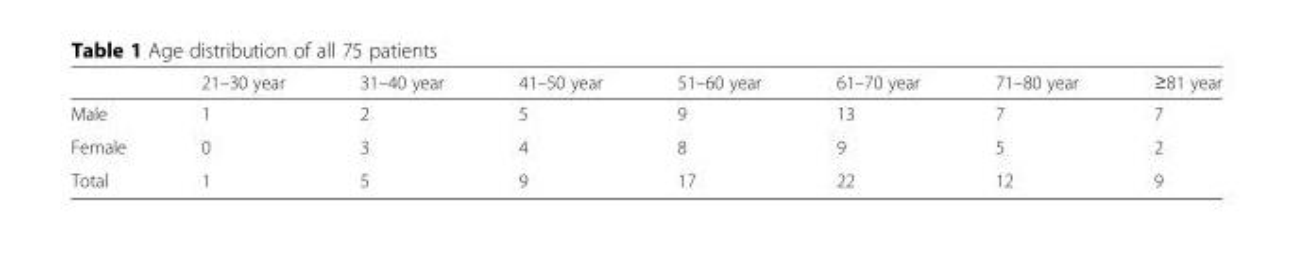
<table><thead><tr><td></td><td>21–30 year</td><td>31–40 year</td><td>41–50 year</td><td>51–60 year</td><td>61–70 year</td><td>71–80 year</td><td>≥81 year</td></tr></thead><tbody><tr><td>Male</td><td>1</td><td>2</td><td>5</td><td>9</td><td>13</td><td>7</td><td>7</td></tr><tr><td>Female</td><td>0</td><td>3</td><td>4</td><td>8</td><td>9</td><td>5</td><td>2</td></tr><tr><td>Total</td><td>1</td><td>5</td><td>9</td><td>17</td><td>22</td><td>12</td><td>9</td></tr></tbody></table>